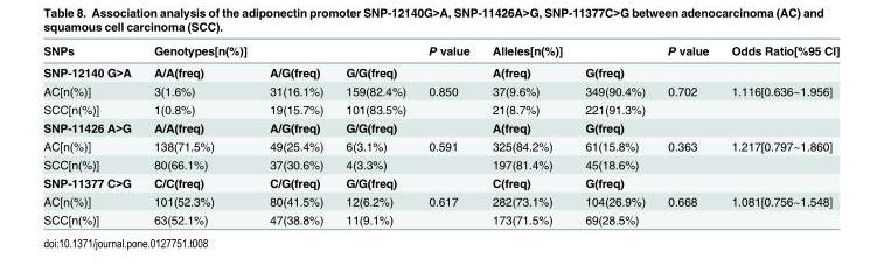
<table><thead><tr><td>SNPs</td><td>Genotypes[n(%)]</td><td></td><td></td><td>P value</td><td>Alleles[n(%)]</td><td></td><td>P value</td><td>Odds Ratio[%95 CI]</td></tr></thead><tbody><tr><td>SNP-12140 G&gt;A</td><td>A/A(freq)</td><td>A/G(freq)</td><td>G/G(freq)</td><td></td><td>A(freq)</td><td>G(freq)</td><td></td><td></td></tr><tr><td>AC[n(%)]</td><td>3(1.6%)</td><td>31(16.1%)</td><td>159(82.4%)</td><td>0.850</td><td>37(9.6%)</td><td>349(90.4%)</td><td>0.702</td><td>1.116[0.636~1.956]</td></tr><tr><td>SCC[n(%)]</td><td>1(0.8%)</td><td>19(15.7%)</td><td>101(83.5%)</td><td></td><td>21(8.7%)</td><td>221(91.3%)</td><td></td><td></td></tr><tr><td>SNP-11426 A&gt;G</td><td>A/A(freq)</td><td>A/G(freq)</td><td>G/G(freq)</td><td></td><td>A(freq)</td><td>G(freq)</td><td></td><td></td></tr><tr><td>AC[n(%)]</td><td>138(71.5%)</td><td>49(25.4%)</td><td>6(3.1%)</td><td>0.591</td><td>325(84.2%)</td><td>61(15.8%)</td><td>0.363</td><td>1.217[0.797~1.860]</td></tr><tr><td>SCC[n(%)]</td><td>80(66.1%)</td><td>37(30.6%)</td><td>4(3.3%)</td><td></td><td>197(81.4%)</td><td>45(18.6%)</td><td></td><td></td></tr><tr><td>SNP-11377 C&gt;G</td><td>C/C(freq)</td><td>C/G(freq)</td><td>G/G(freq)</td><td></td><td>C(freq)</td><td>G(freq)</td><td></td><td></td></tr><tr><td>AC[n(%)]</td><td>101(52.3%)</td><td>80(41.5%)</td><td>12(6.2%)</td><td>0.617</td><td>282(73.1%)</td><td>104(26.9%)</td><td>0.668</td><td>1.081[0.756~1.548]</td></tr><tr><td>SCC[n(%)]</td><td>63(52.1%)</td><td>47(38.8%)</td><td>11(9.1%)</td><td></td><td>173(71.5%)</td><td>69(28.5%)</td><td></td><td></td></tr></tbody></table>